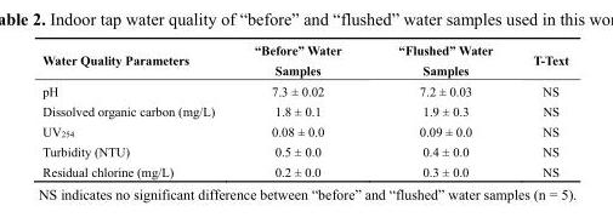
<table><thead><tr><td>Water Quality Parameters</td><td>“Before” Water Samples</td><td>“Flushed” Water Samples</td><td>T-Text</td></tr></thead><tbody><tr><td>pH</td><td>7.3 ± 0.02</td><td>7.2 ± 0.03</td><td>NS</td></tr><tr><td>Dissolved organic carbon (mg/L)</td><td>1.8 ± 0.1</td><td>1.9 ± 0.3</td><td>NS</td></tr><tr><td>UV<sub>254</sub></td><td>0.08 ± 0.0</td><td>0.09 ± 0.0</td><td>NS</td></tr><tr><td>Turbidity (NTU)</td><td>0.5 ± 0.0</td><td>0.4 ± 0.0</td><td>NS</td></tr><tr><td>Residual chlorine (mg/L)</td><td>0.2 ± 0.0</td><td>0.3 ± 0.0</td><td>NS</td></tr></tbody></table>